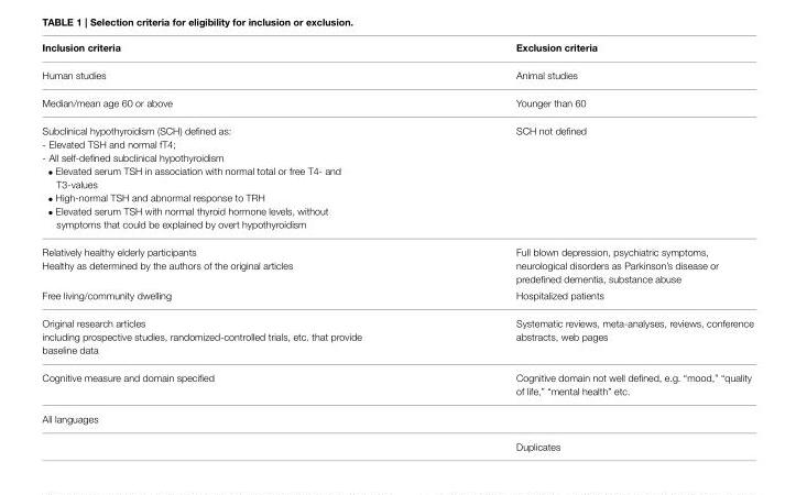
<table><thead><tr><td>Inclusion criteria</td><td>Exclusion criteria</td></tr></thead><tbody><tr><td>Human studies</td><td>Animal studies</td></tr><tr><td>Median/mean age 60 or above</td><td>Younger than 60</td></tr><tr><td>Subclinical hypothyroidism (SCH) defined as: - Elevated TSH and normal fT4; - All self-defined subclinical hypothyroidism • Elevated serum TSH in association with normal total or free T4- and T3-values • High-normal TSH and abnormal response to TRH • Elevated serum TSH with normal thyroid hormone levels, without symptoms that could be explained by overt hypothyroidism</td><td>SCH not defined</td></tr><tr><td>Relatively healthy elderly participants Healthy as determined by the authors of the original articles</td><td>Full blown depression, psychiatric symptoms, neurological disorders as Parkinson’s disease or predefined dementia, substance abuse</td></tr><tr><td>Free living/community dwelling</td><td>Hospitalized patients</td></tr><tr><td>Original research articles including prospective studies, randomized-controlled trials, etc. that provide baseline data</td><td>Systematic reviews, meta-analyses, reviews, conference abstracts, web pages</td></tr><tr><td>Cognitive measure and domain specified</td><td>Cognitive domain not well defined, e.g. “mood,” “quality of life,” “mental health” etc.</td></tr><tr><td colspan="2">All languages</td></tr><tr><td></td><td>Duplicates</td></tr></tbody></table>